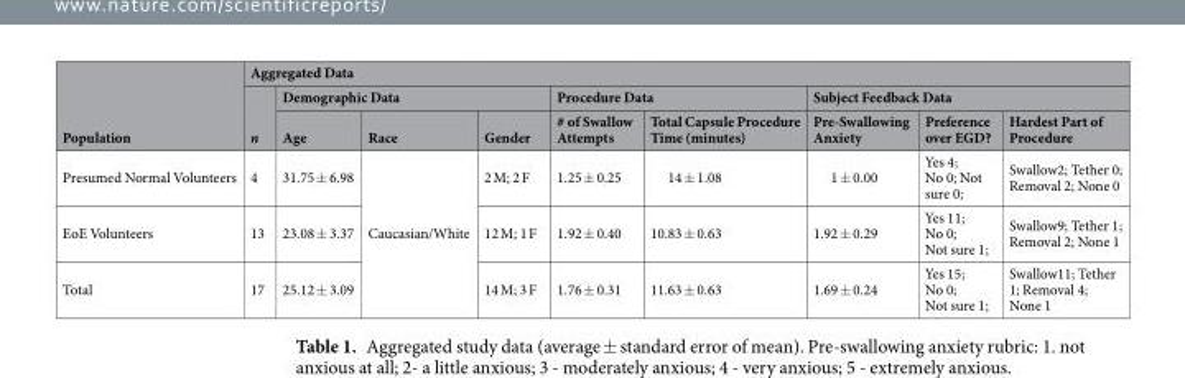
<table><thead><tr><td rowspan="3">Population</td><td colspan="9">Aggregated Data</td></tr><tr><td rowspan="2">n</td><td colspan="3">Demographic Data</td><td colspan="2">Procedure Data</td><td colspan="3">Subject Feedback Data</td></tr><tr><td>Age</td><td>Race</td><td>Gender</td><td># of Swallow Attempts</td><td>Total Capsule Procedure Time (minutes)</td><td>Pre-Swallowing Anxiety</td><td>Preference over EGD?</td><td>Hardest Part of Procedure</td></tr></thead><tbody><tr><td>Presumed Normal Volunteers</td><td>4</td><td>31.75 ± 6.98</td><td rowspan="3">Caucasian/White</td><td>2 M; 2 F</td><td>1.25 ± 0.25</td><td>14 ± 1.08</td><td>1 ± 0.00</td><td>Yes 4; No 0; Not sure 0;</td><td>Swallow2; Tether 0; Removal 2; None 0</td></tr><tr><td>EoE Volunteers</td><td>13</td><td>23.08 ± 3.37</td><td>12 M; 1 F</td><td>1.92 ± 0.40</td><td>10.83 ± 0.63</td><td>1.92 ± 0.29</td><td>Yes 11; No 0; Not sure 1;</td><td>Swallow9; Tether 1; Removal 2; None 1</td></tr><tr><td>Total</td><td>17</td><td>25.12 ± 3.09</td><td>14 M; 3 F</td><td>1.76 ± 0.31</td><td>11.63 ± 0.63</td><td>1.69 ± 0.24</td><td>Yes 15; No 0; Not sure 1;</td><td>Swallow11; Tether 1; Removal 4; None 1</td></tr></tbody></table>